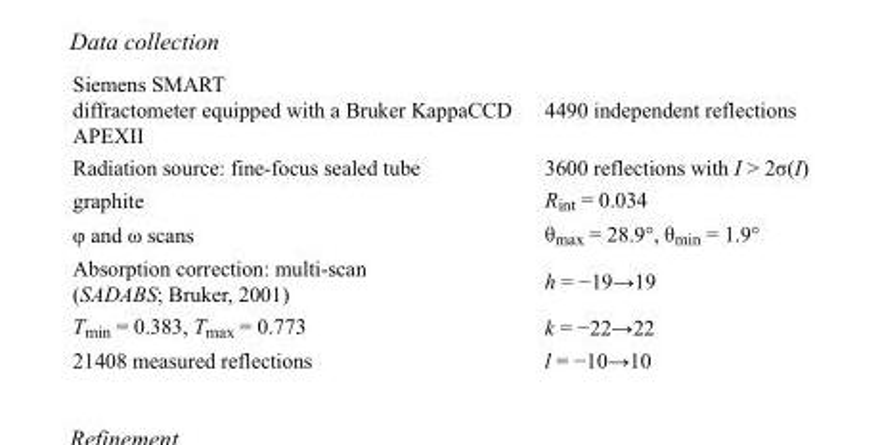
<table><tbody><tr><td>Siemens SMART diffractometer equipped with a Bruker KappaCCD APEXII</td><td>4490 independent reflections</td></tr><tr><td>Radiation source: fine-focus sealed tube</td><td>3600 reflections with I &gt; 2σ(I)</td></tr><tr><td>graphite</td><td>R<sub>int</sub> = 0.034</td></tr><tr><td>φ and ω scans</td><td>θ<sub>max</sub> = 28.9°, θ<sub>min</sub> = 1.9°</td></tr><tr><td>Absorption correction: multi-scan (SADABS; Bruker, 2001)</td><td>h = −19→19</td></tr><tr><td>T<sub>min</sub> = 0.383, T<sub>max</sub> = 0.773</td><td>k = −22→22</td></tr><tr><td>21408 measured reflections</td><td>l = −10→10</td></tr></tbody></table>